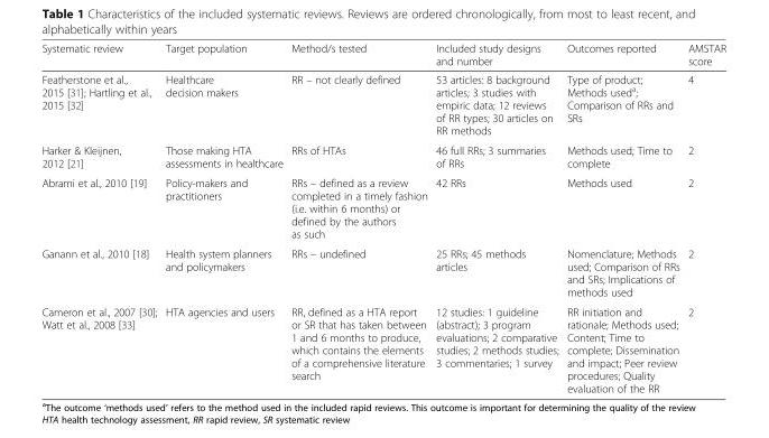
<table><thead><tr><td>Systematic review</td><td>Target population</td><td>Method/s tested</td><td>Included study designs and number</td><td>Outcomes reported</td><td>AMSTAR score</td></tr></thead><tbody><tr><td>Featherstone et al., 2015 [31]; Hartling et al., 2015 [32]</td><td>Healthcare decision makers</td><td>RR – not clearly defined</td><td>53 articles: 8 background articles; 3 studies with empiric data; 12 reviews of RR types; 30 articles on RR methods</td><td>Type of product; Methods used<sup>a</sup>; Comparison of RRs and SRs</td><td>4</td></tr><tr><td>Harker &amp; Kleijnen, 2012 [21]</td><td>Those making HTA assessments in healthcare</td><td>RRs of HTAs</td><td>46 full RRs; 3 summaries of RRs</td><td>Methods used; Time to complete</td><td>2</td></tr><tr><td>Abrami et al., 2010 [19]</td><td>Policy-makers and practitioners</td><td>RRs – defined as a review completed in a timely fashion (i.e. within 6 months) or defined by the authors as such</td><td>42 RRs</td><td>Methods used</td><td>2</td></tr><tr><td>Ganann et al., 2010 [18]</td><td>Health system planners and policymakers</td><td>RRs – undefined</td><td>25 RRs; 45 methods articles</td><td>Nomenclature; Methods used; Comparison of RRs and SRs; Implications of methods used</td><td>2</td></tr><tr><td>Cameron et al., 2007 [30]; Watt et al., 2008 [33]</td><td>HTA agencies and users</td><td>RR, defined as a HTA report or SR that has taken between 1 and 6 months to produce, which contains the elements of a comprehensive literature search</td><td>12 studies: 1 guideline (abstract); 3 program evaluations; 2 comparative studies; 2 methods studies; 3 commentaries; 1 survey</td><td>RR initiation and rationale; Methods used; Content; Time to complete; Dissemination and impact; Peer review procedures; Quality evaluation of the RR</td><td>2</td></tr></tbody></table>